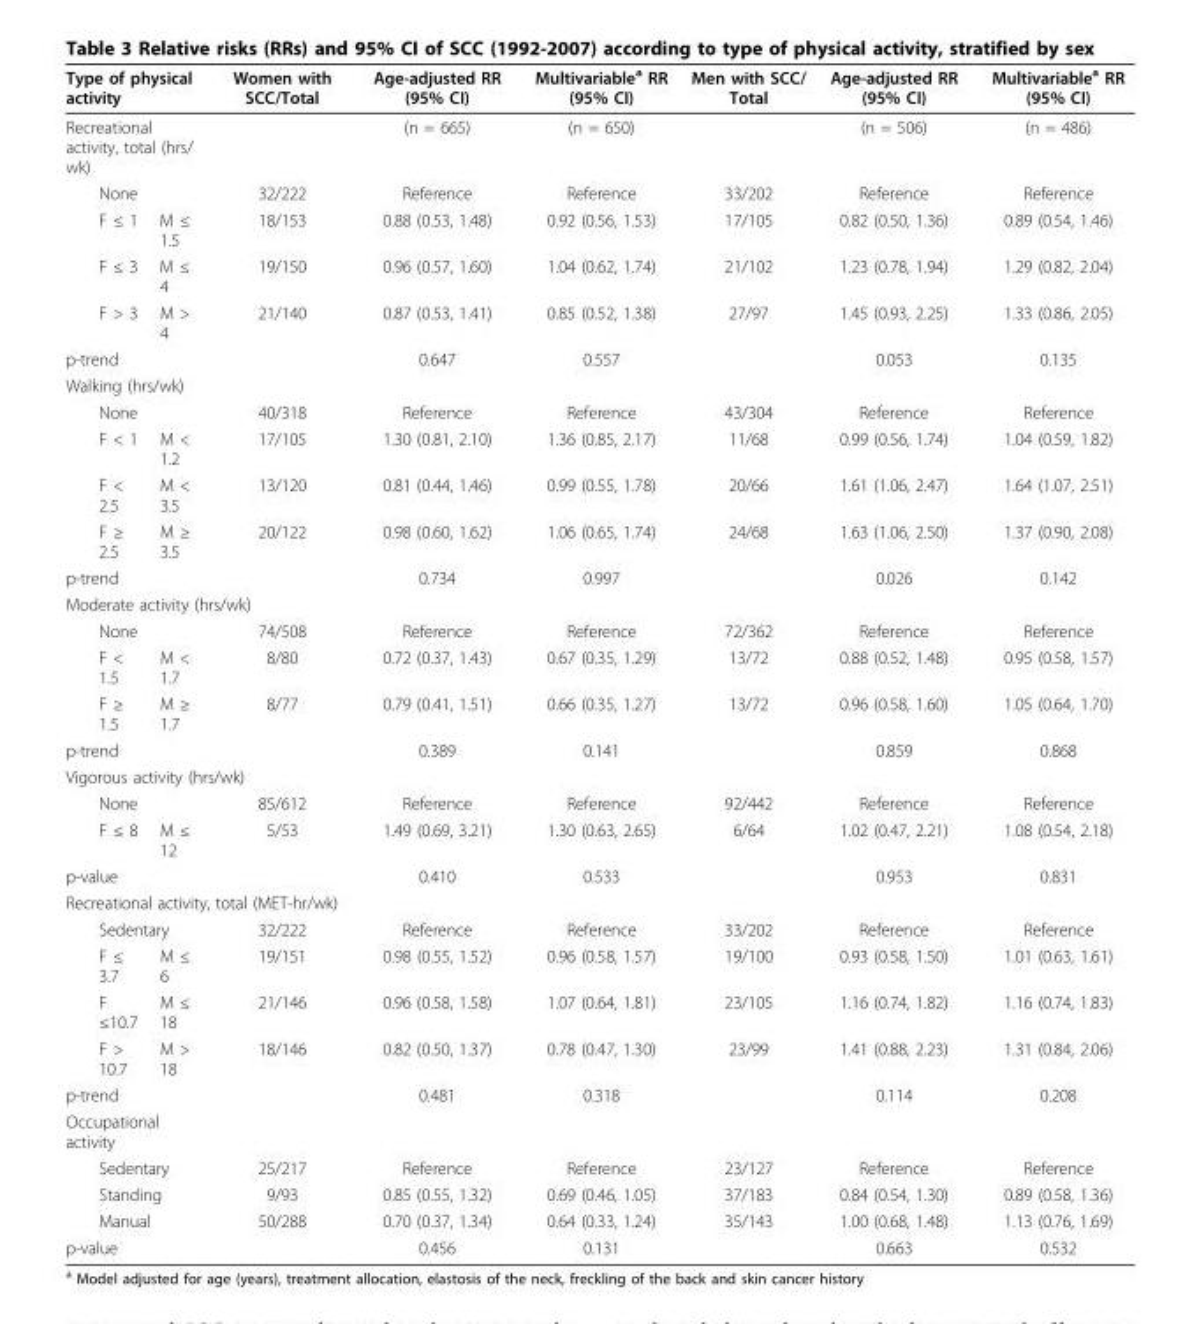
<table><thead><tr><td rowspan="3" colspan="2">Type of physical activity Recreational activity, total (hrs/ wk) None</td><td rowspan="4">Women with SCC/Total 32/222 18/153</td><td rowspan="4">Age-adjusted RR (95% CI) (n = 665) Reference 0.88 (0.53, 1.48)</td><td rowspan="4">Multivariablea RR (95% CI) (n = 650) Reference 0.92 (0.56, 1.53)</td><td rowspan="4">Men with SCC/ Total 33/202 17/105</td><td rowspan="4">Age-adjusted RR (95% CI) (n = 506) Reference 0.82 (0.50, 1.36)</td><td rowspan="4">Multivariablea RR (95% CI) (n = 486) Reference 0.89 (0.54, 1.46)</td></tr><tr></tr><tr></tr><tr><td>F ≤ 1</td><td>M ≤ 1.5</td></tr></thead><tbody><tr><td>F ≤ 3</td><td>M ≤ 4</td><td>19/150</td><td>0.96 (0.57, 1.60)</td><td>1.04 (0.62, 1.74)</td><td>21/102</td><td>1.23 (0.78, 1.94)</td><td>1.29 (0.82, 2.04)</td></tr><tr><td>F &gt; 3</td><td>M &gt; 4</td><td>21/140</td><td>0.87 (0.53, 1.41)</td><td>0.85 (0.52, 1.38)</td><td>27/97</td><td>1.45 (0.93, 2.25)</td><td>1.33 (0.86, 2.05)</td></tr><tr><td colspan="2">p-trend</td><td></td><td>0.647</td><td>0.557</td><td></td><td>0.053</td><td>0.135</td></tr><tr><td colspan="8">Walking (hrs/wk)</td></tr><tr><td colspan="2">None</td><td>40/318</td><td>Reference</td><td>Reference</td><td>43/304</td><td>Reference</td><td>Reference</td></tr><tr><td>F &lt; 1</td><td>M &lt; 1.2</td><td>17/105</td><td>1.30 (0.81, 2.10)</td><td>1.36 (0.85, 2.17)</td><td>11/68</td><td>0.99 (0.56, 1.74)</td><td>1.04 (0.59, 1.82)</td></tr><tr><td>F &lt; 2.5</td><td>M &lt; 3.5</td><td>13/120</td><td>0.81 (0.44, 1.46)</td><td>0.99 (0.55, 1.78)</td><td>20/66</td><td>1.61 (1.06, 2.47)</td><td>1.64 (1.07, 2.51)</td></tr><tr><td>F ≥ 2.5</td><td>M ≥ 3.5</td><td>20/122</td><td>0.98 (0.60, 1.62)</td><td>1.06 (0.65, 1.74)</td><td>24/68</td><td>1.63 (1.06, 2.50)</td><td>1.37 (0.90, 2.08)</td></tr><tr><td colspan="2">p-trend</td><td></td><td>0.734</td><td>0.997</td><td></td><td>0.026</td><td>0.142</td></tr><tr><td colspan="8">Moderate activity (hrs/wk)</td></tr><tr><td colspan="2">None</td><td>74/508</td><td>Reference</td><td>Reference</td><td>72/362</td><td>Reference</td><td>Reference</td></tr><tr><td>F &lt; 1.5</td><td>M &lt; 1.7</td><td>8/80</td><td>0.72 (0.37, 1.43)</td><td>0.67 (0.35, 1.29)</td><td>13/72</td><td>0.88 (0.52, 1.48)</td><td>0.95 (0.58, 1.57)</td></tr><tr><td>F ≥ 1.5</td><td>M ≥ 1.7</td><td>8/77</td><td>0.79 (0.41, 1.51)</td><td>0.66 (0.35, 1.27)</td><td>13/72</td><td>0.96 (0.58, 1.60)</td><td>1.05 (0.64, 1.70)</td></tr><tr><td colspan="2">p-trend</td><td></td><td>0.389</td><td>0.141</td><td></td><td>0.859</td><td>0.868</td></tr><tr><td colspan="8">Vigorous activity (hrs/wk)</td></tr><tr><td colspan="2">None</td><td>85/612</td><td>Reference</td><td>Reference</td><td>92/442</td><td>Reference</td><td>Reference</td></tr><tr><td>F ≤ 8</td><td>M ≤ 12</td><td>5/53</td><td>1.49 (0.69, 3.21)</td><td>1.30 (0.63, 2.65)</td><td>6/64</td><td>1.02 (0.47, 2.21)</td><td>1.08 (0.54, 2.18)</td></tr><tr><td colspan="2">p-value</td><td></td><td>0.410</td><td>0.533</td><td></td><td>0.953</td><td>0.831</td></tr><tr><td colspan="8">Recreational activity, total (MET-hr/wk)</td></tr><tr><td colspan="2">Sedentary</td><td>32/222</td><td>Reference</td><td>Reference</td><td>33/202</td><td>Reference</td><td>Reference</td></tr><tr><td>F ≤ 3.7</td><td>M ≤ 6</td><td>19/151</td><td>0.98 (0.55, 1.52)</td><td>0.96 (0.58, 1.57)</td><td>19/100</td><td>0.93 (0.58, 1.50)</td><td>1.01 (0.63, 1.61)</td></tr><tr><td>F ≤10.7</td><td>M ≤ 18</td><td>21/146</td><td>0.96 (0.58, 1.58)</td><td>1.07 (0.64, 1.81)</td><td>23/105</td><td>1.16 (0.74, 1.82)</td><td>1.16 (0.74, 1.83)</td></tr><tr><td>F &gt; 10.7</td><td>M &gt; 18</td><td>18/146</td><td>0.82 (0.50, 1.37)</td><td>0.78 (0.47, 1.30)</td><td>23/99</td><td>1.41 (0.88, 2.23)</td><td>1.31 (0.84, 2.06)</td></tr><tr><td colspan="2">p-trend</td><td></td><td>0.481</td><td>0.318</td><td></td><td>0.114</td><td>0.208</td></tr><tr><td colspan="8">Occupational activity</td></tr><tr><td colspan="2">Sedentary</td><td>25/217</td><td>Reference</td><td>Reference</td><td>23/127</td><td>Reference</td><td>Reference</td></tr><tr><td colspan="2">Standing</td><td>9/93</td><td>0.85 (0.55, 1.32)</td><td>0.69 (0.46, 1.05)</td><td>37/183</td><td>0.84 (0.54, 1.30)</td><td>0.89 (0.58, 1.36)</td></tr><tr><td colspan="2">Manual</td><td>50/288</td><td>0.70 (0.37, 1.34)</td><td>0.64 (0.33, 1.24)</td><td>35/143</td><td>1.00 (0.68, 1.48)</td><td>1.13 (0.76, 1.69)</td></tr><tr><td colspan="2">p-value</td><td></td><td>0.456</td><td>0.131</td><td></td><td>0.663</td><td>0.532</td></tr></tbody></table>